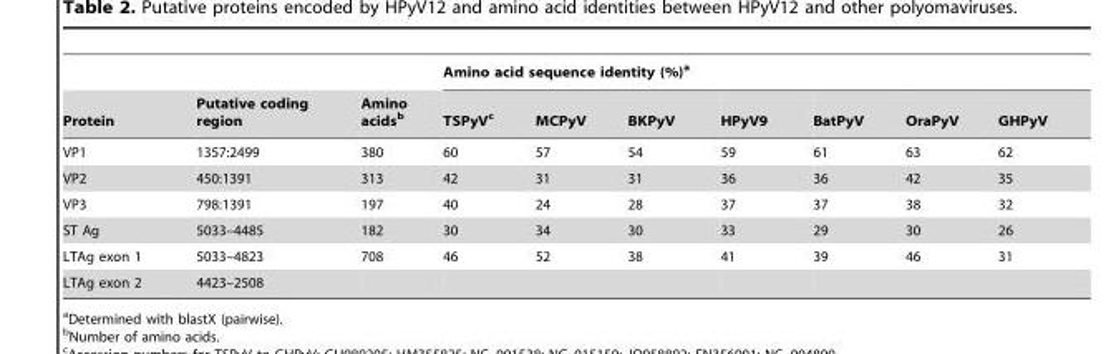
<table><thead><tr><td rowspan="2">Protein</td><td rowspan="2">Putative coding region</td><td rowspan="2">Amino acids<sup>b</sup></td><td colspan="7">Amino acid sequence identity (%)<sup>a</sup></td></tr><tr><td>TSPyV<sup>c</sup></td><td>MCPyV</td><td>BKPyV</td><td>HPyV9</td><td>BatPyV</td><td>OraPyV</td><td>GHPyV</td></tr></thead><tbody><tr><td>VP1</td><td>1357:2499</td><td>380</td><td>60</td><td>57</td><td>54</td><td>59</td><td>61</td><td>63</td><td>62</td></tr><tr><td>VP2</td><td>450:1391</td><td>313</td><td>42</td><td>31</td><td>31</td><td>36</td><td>36</td><td>42</td><td>35</td></tr><tr><td>VP3</td><td>798:1391</td><td>197</td><td>40</td><td>24</td><td>28</td><td>37</td><td>37</td><td>38</td><td>32</td></tr><tr><td>ST Ag</td><td>5033–4485</td><td>182</td><td>30</td><td>34</td><td>30</td><td>33</td><td>29</td><td>30</td><td>26</td></tr><tr><td>LTAg exon 1</td><td>5033–4823</td><td>708</td><td>46</td><td>52</td><td>38</td><td>41</td><td>39</td><td>46</td><td>31</td></tr><tr><td>LTAg exon 2</td><td>4423–2508</td><td></td><td></td><td></td><td></td><td></td><td></td><td></td><td></td></tr></tbody></table>